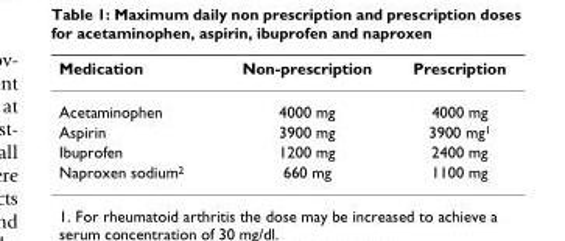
<table><thead><tr><td>Medication</td><td>Non-prescription</td><td>Prescription</td></tr></thead><tbody><tr><td>Acetaminophen</td><td>4000 mg</td><td>4000 mg</td></tr><tr><td>Aspirin</td><td>3900 mg</td><td>3900 mg<sup>1</sup></td></tr><tr><td>Ibuprofen</td><td>1200 mg</td><td>2400 mg</td></tr><tr><td>Naproxen sodium<sup>2</sup></td><td>660 mg</td><td>1100 mg</td></tr></tbody></table>